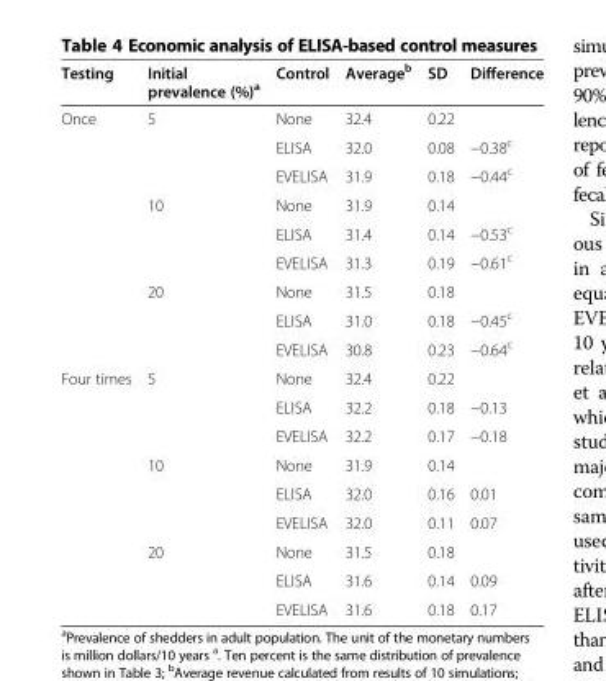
<table><thead><tr><td>Testing</td><td>Initial prevalence (%)<sup>a</sup></td><td>Control</td><td>Average<sup>b</sup></td><td>SD</td><td>Difference</td></tr></thead><tbody><tr><td rowspan="9">Once</td><td rowspan="3">5</td><td>None</td><td>32.4</td><td>0.22</td><td></td></tr><tr><td>ELISA</td><td>32.0</td><td>0.08</td><td>−0.38<sup>c</sup></td></tr><tr><td>EVELISA</td><td>31.9</td><td>0.18</td><td>−0.44<sup>c</sup></td></tr><tr><td rowspan="3">10</td><td>None</td><td>31.9</td><td>0.14</td><td></td></tr><tr><td>ELISA</td><td>31.4</td><td>0.14</td><td>−0.53<sup>c</sup></td></tr><tr><td>EVELISA</td><td>31.3</td><td>0.19</td><td>−0.61<sup>c</sup></td></tr><tr><td rowspan="3">20</td><td>None</td><td>31.5</td><td>0.18</td><td></td></tr><tr><td>ELISA</td><td>31.0</td><td>0.18</td><td>−0.45<sup>c</sup></td></tr><tr><td>EVELISA</td><td>30.8</td><td>0.23</td><td>−0.64<sup>c</sup></td></tr><tr><td rowspan="9">Four times</td><td rowspan="3">5</td><td>None</td><td>32.4</td><td>0.22</td><td></td></tr><tr><td>ELISA</td><td>32.2</td><td>0.18</td><td>−0.13</td></tr><tr><td>EVELISA</td><td>32.2</td><td>0.17</td><td>−0.18</td></tr><tr><td rowspan="3">10</td><td>None</td><td>31.9</td><td>0.14</td><td></td></tr><tr><td>ELISA</td><td>32.0</td><td>0.16</td><td>0.01</td></tr><tr><td>EVELISA</td><td>32.0</td><td>0.11</td><td>0.07</td></tr><tr><td rowspan="3">20</td><td>None</td><td>31.5</td><td>0.18</td><td></td></tr><tr><td>ELISA</td><td>31.6</td><td>0.14</td><td>0.09</td></tr><tr><td>EVELISA</td><td>31.6</td><td>0.18</td><td>0.17</td></tr></tbody></table>